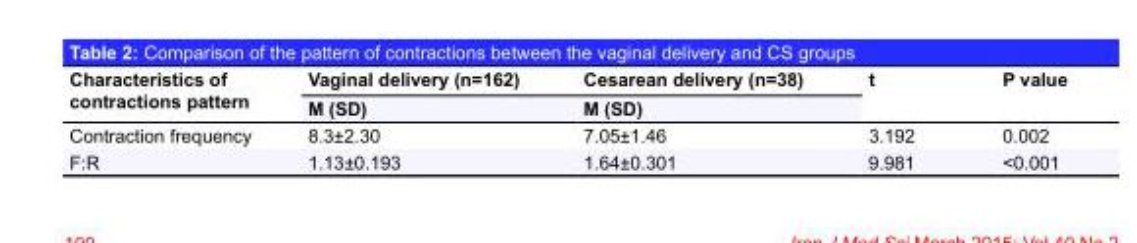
<table><thead><tr><td rowspan="2">Characteristics of contractions pattern</td><td rowspan="2">Vaginal delivery (n=162) M (SD)</td><td rowspan="2">Cesarean delivery (n=38) M (SD)</td><td rowspan="2">t</td><td rowspan="2">P value</td></tr><tr></tr></thead><tbody><tr><td>Contraction frequency</td><td>8.3±2.30</td><td>7.05±1.46</td><td>3.192</td><td>0.002</td></tr><tr><td>F:R</td><td>1.13±0.193</td><td>1.64±0.301</td><td>9.981</td><td>&lt;0.001</td></tr></tbody></table>